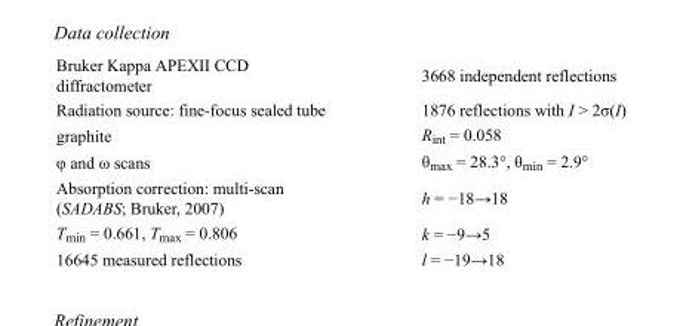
<table><tbody><tr><td>Bruker Kappa APEXII CCD diffractometer</td><td>3668 independent reflections</td></tr><tr><td>Radiation source: fine-focus sealed tube</td><td>1876 reflections with I &gt; 2σ(I)</td></tr><tr><td>graphite</td><td>R<sub>int</sub> = 0.058</td></tr><tr><td>φ and ω scans</td><td>θ<sub>max</sub> = 28.3°, θ<sub>min</sub> = 2.9°</td></tr><tr><td>Absorption correction: multi-scan (SADABS; Bruker, 2007)</td><td>h = −18→18</td></tr><tr><td>T<sub>min</sub> = 0.661, T<sub>max</sub> = 0.806</td><td>k = −9→5</td></tr><tr><td>16645 measured reflections</td><td>l = −19→18</td></tr></tbody></table>